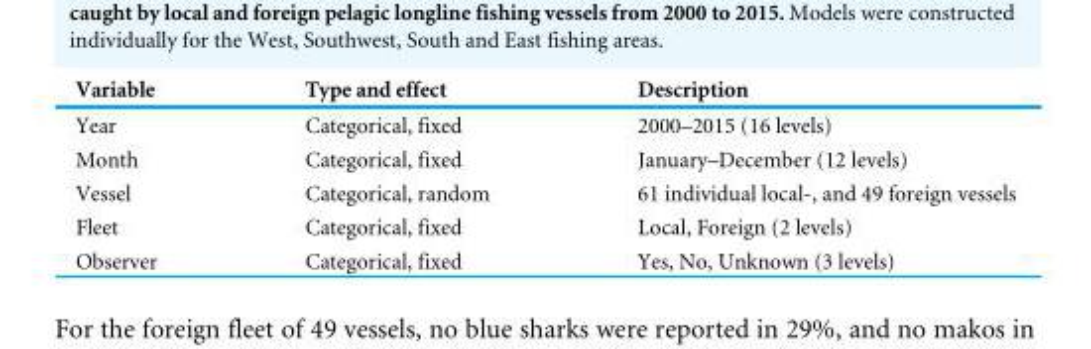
<table><thead><tr><td>Variable</td><td>Type and effect</td><td>Description</td></tr></thead><tbody><tr><td>Year</td><td>Categorical, fixed</td><td>2000–2015 (16 levels)</td></tr><tr><td>Month</td><td>Categorical, fixed</td><td>January–December (12 levels)</td></tr><tr><td>Vessel</td><td>Categorical, random</td><td>61 individual local-, and 49 foreign vessels</td></tr><tr><td>Fleet</td><td>Categorical, fixed</td><td>Local, Foreign (2 levels)</td></tr><tr><td>Observer</td><td>Categorical, fixed</td><td>Yes, No, Unknown (3 levels)</td></tr></tbody></table>